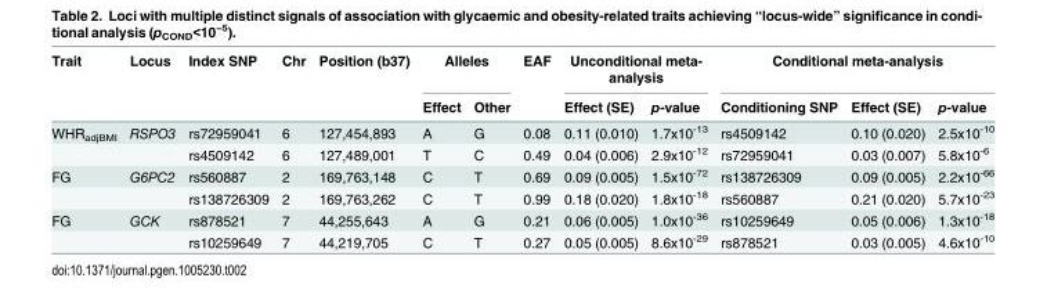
<table><thead><tr><td rowspan="2">Trait</td><td rowspan="2">Locus</td><td rowspan="2">Index SNP</td><td rowspan="2">Chr</td><td rowspan="2">Position (b37)</td><td colspan="2">Alleles</td><td rowspan="2">EAF</td><td colspan="2">Unconditional meta- analysis</td><td colspan="3">Conditional meta-analysis</td></tr><tr><td>Effect</td><td>Other</td><td>Effect (SE)</td><td>p-value</td><td>Conditioning SNP</td><td>Effect (SE)</td><td>p-value</td></tr></thead><tbody><tr><td rowspan="2">WHR<sub>adjBMI</sub></td><td>RSPO3</td><td>rs72959041</td><td>6</td><td>127,454,893</td><td>A</td><td>G</td><td>0.08</td><td>0.11 (0.010)</td><td>1.7x10<sup>-13</sup></td><td>rs4509142</td><td>0.10 (0.020)</td><td>2.5x10<sup>-10</sup></td></tr><tr><td></td><td>rs4509142</td><td>6</td><td>127,489,001</td><td>T</td><td>C</td><td>0.49</td><td>0.04 (0.006)</td><td>2.9x10<sup>-12</sup></td><td>rs72959041</td><td>0.03 (0.007)</td><td>5.8x10<sup>-6</sup></td></tr><tr><td rowspan="2">FG</td><td>G6PC2</td><td>rs560887</td><td>2</td><td>169,763,148</td><td>C</td><td>T</td><td>0.69</td><td>0.09 (0.005)</td><td>1.5x10<sup>-72</sup></td><td>rs138726309</td><td>0.09 (0.005)</td><td>2.2x10<sup>-66</sup></td></tr><tr><td></td><td>rs138726309</td><td>2</td><td>169,763,262</td><td>C</td><td>T</td><td>0.99</td><td>0.18 (0.020)</td><td>1.8x10<sup>-18</sup></td><td>rs560887</td><td>0.21 (0.020)</td><td>5.7x10<sup>-23</sup></td></tr><tr><td rowspan="2">FG</td><td>GCK</td><td>rs878521</td><td>7</td><td>44,255,643</td><td>A</td><td>G</td><td>0.21</td><td>0.06 (0.005)</td><td>1.0x10<sup>-36</sup></td><td>rs10259649</td><td>0.05 (0.006)</td><td>1.3x10<sup>-18</sup></td></tr><tr><td></td><td>rs10259649</td><td>7</td><td>44,219,705</td><td>C</td><td>T</td><td>0.27</td><td>0.05 (0.005)</td><td>8.6x10<sup>-29</sup></td><td>rs878521</td><td>0.03 (0.005)</td><td>4.6x10<sup>-10</sup></td></tr></tbody></table>